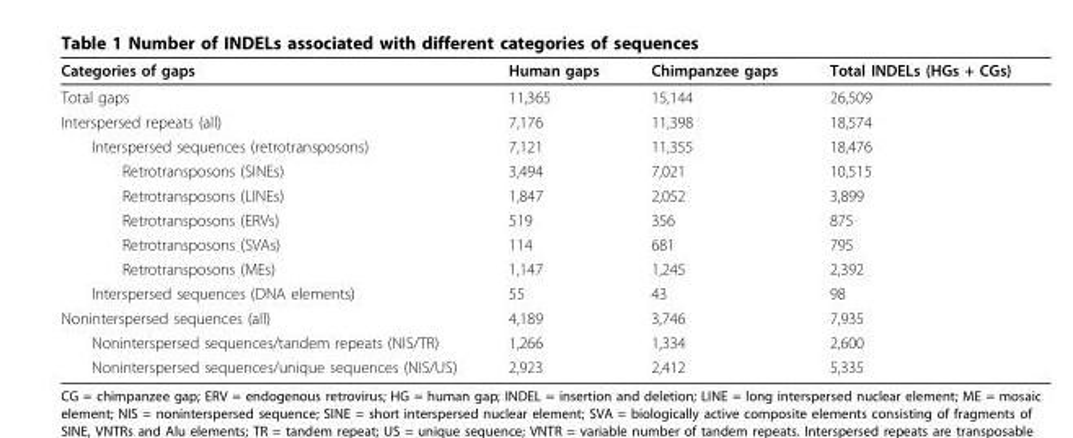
<table><thead><tr><td>Categories of gaps</td><td>Human gaps</td><td>Chimpanzee gaps</td><td>Total INDELs (HGs + CGs)</td></tr></thead><tbody><tr><td>Total gaps</td><td>11,365</td><td>15,144</td><td>26,509</td></tr><tr><td>Interspersed repeats (all)</td><td>7,176</td><td>11,398</td><td>18,574</td></tr><tr><td>Interspersed sequences (retrotransposons)</td><td>7,121</td><td>11,355</td><td>18,476</td></tr><tr><td>Retrotransposons (SINEs)</td><td>3,494</td><td>7,021</td><td>10,515</td></tr><tr><td>Retrotransposons (LINEs)</td><td>1,847</td><td>2,052</td><td>3,899</td></tr><tr><td>Retrotransposons (ERVs)</td><td>519</td><td>356</td><td>875</td></tr><tr><td>Retrotransposons (SVAs)</td><td>114</td><td>681</td><td>795</td></tr><tr><td>Retrotransposons (MEs)</td><td>1,147</td><td>1,245</td><td>2,392</td></tr><tr><td>Interspersed sequences (DNA elements)</td><td>55</td><td>43</td><td>98</td></tr><tr><td>Noninterspersed sequences (all)</td><td>4,189</td><td>3,746</td><td>7,935</td></tr><tr><td>Noninterspersed sequences/tandem repeats (NIS/TR)</td><td>1,266</td><td>1,334</td><td>2,600</td></tr><tr><td>Noninterspersed sequences/unique sequences (NIS/US)</td><td>2,923</td><td>2,412</td><td>5,335</td></tr></tbody></table>